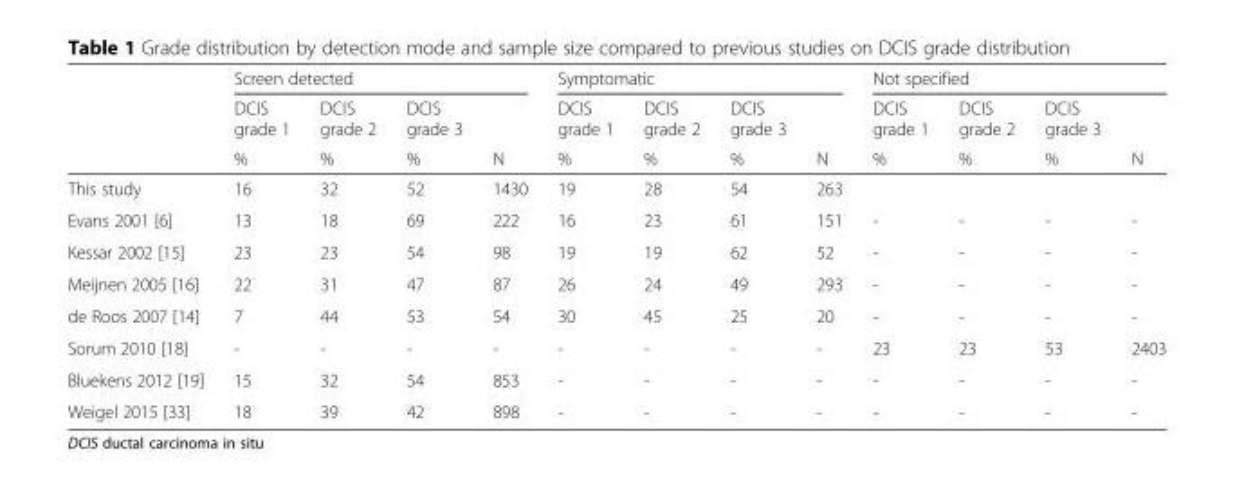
<table><thead><tr><td rowspan="3"></td><td colspan="4">Screen detected</td><td colspan="4">Symptomatic</td><td colspan="4">Not specified</td></tr><tr><td rowspan="2">DCIS grade 1 %</td><td rowspan="2">DCIS grade 2 %</td><td rowspan="2">DCIS grade 3 %</td><td rowspan="2">N</td><td rowspan="2">DCIS grade 1 %</td><td rowspan="2">DCIS grade 2 %</td><td rowspan="2">DCIS grade 3 %</td><td rowspan="2">N</td><td rowspan="2">DCIS grade 1 %</td><td rowspan="2">DCIS grade 2 %</td><td rowspan="2">DCIS grade 3 %</td><td rowspan="2">N</td></tr><tr></tr></thead><tbody><tr><td>This study</td><td>16</td><td>32</td><td>52</td><td>1430</td><td>19</td><td>28</td><td>54</td><td>263</td><td></td><td></td><td></td><td></td></tr><tr><td>Evans 2001 [6]</td><td>13</td><td>18</td><td>69</td><td>222</td><td>16</td><td>23</td><td>61</td><td>151</td><td>-</td><td>-</td><td>-</td><td>-</td></tr><tr><td>Kessar 2002 [15]</td><td>23</td><td>23</td><td>54</td><td>98</td><td>19</td><td>19</td><td>62</td><td>52</td><td>-</td><td>-</td><td>-</td><td>-</td></tr><tr><td>Meijnen 2005 [16]</td><td>22</td><td>31</td><td>47</td><td>87</td><td>26</td><td>24</td><td>49</td><td>293</td><td>-</td><td>-</td><td>-</td><td>-</td></tr><tr><td>de Roos 2007 [14]</td><td>7</td><td>44</td><td>53</td><td>54</td><td>30</td><td>45</td><td>25</td><td>20</td><td>-</td><td>-</td><td>-</td><td>-</td></tr><tr><td>Sorum 2010 [18]</td><td>-</td><td>-</td><td>-</td><td>-</td><td>-</td><td>-</td><td>-</td><td>-</td><td>23</td><td>23</td><td>53</td><td>2403</td></tr><tr><td>Bluekens 2012 [19]</td><td>15</td><td>32</td><td>54</td><td>853</td><td>-</td><td>-</td><td>-</td><td>-</td><td>-</td><td>-</td><td>-</td><td>-</td></tr><tr><td>Weigel 2015 [33]</td><td>18</td><td>39</td><td>42</td><td>898</td><td>-</td><td>-</td><td>-</td><td>-</td><td>-</td><td>-</td><td>-</td><td>-</td></tr></tbody></table>